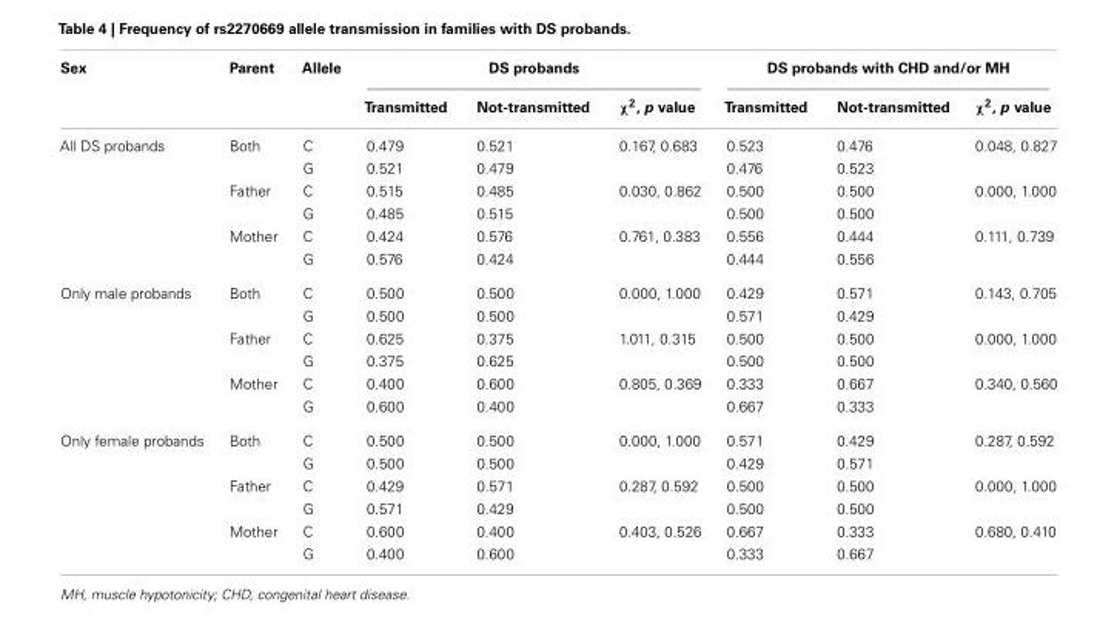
<table><thead><tr><td rowspan="2">Sex</td><td rowspan="2">Parent</td><td rowspan="2">Allele</td><td colspan="3">DS probands</td><td colspan="3">DS probands with CHD and/or MH</td></tr><tr><td>Transmitted</td><td>Not-transmitted</td><td>χ<sup>2</sup>, p value</td><td>Transmitted</td><td>Not-transmitted</td><td>χ<sup>2</sup>, p value</td></tr></thead><tbody><tr><td rowspan="6">All DS probands</td><td>Both</td><td>C</td><td>0.479</td><td>0.521</td><td>0.167, 0.683</td><td>0.523</td><td>0.476</td><td>0.048, 0.827</td></tr><tr><td></td><td>G</td><td>0.521</td><td>0.479</td><td></td><td>0.476</td><td>0.523</td><td></td></tr><tr><td>Father</td><td>C</td><td>0.515</td><td>0.485</td><td>0.030, 0.862</td><td>0.500</td><td>0.500</td><td>0.000, 1.000</td></tr><tr><td></td><td>G</td><td>0.485</td><td>0.515</td><td></td><td>0.500</td><td>0.500</td><td></td></tr><tr><td>Mother</td><td>C</td><td>0.424</td><td>0.576</td><td>0.761, 0.383</td><td>0.556</td><td>0.444</td><td>0.111, 0.739</td></tr><tr><td></td><td>G</td><td>0.576</td><td>0.424</td><td></td><td>0.444</td><td>0.556</td><td></td></tr><tr><td rowspan="6">Only male probands</td><td>Both</td><td>C</td><td>0.500</td><td>0.500</td><td>0.000, 1.000</td><td>0.429</td><td>0.571</td><td>0.143, 0.705</td></tr><tr><td></td><td>G</td><td>0.500</td><td>0.500</td><td></td><td>0.571</td><td>0.429</td><td></td></tr><tr><td>Father</td><td>C</td><td>0.625</td><td>0.375</td><td>1.011, 0.315</td><td>0.500</td><td>0.500</td><td>0.000, 1.000</td></tr><tr><td></td><td>G</td><td>0.375</td><td>0.625</td><td></td><td>0.500</td><td>0.500</td><td></td></tr><tr><td>Mother</td><td>C</td><td>0.400</td><td>0.600</td><td>0.805, 0.369</td><td>0.333</td><td>0.667</td><td>0.340, 0.560</td></tr><tr><td></td><td>G</td><td>0.600</td><td>0.400</td><td></td><td>0.667</td><td>0.333</td><td></td></tr><tr><td rowspan="6">Only female probands</td><td>Both</td><td>C</td><td>0.500</td><td>0.500</td><td>0.000, 1.000</td><td>0.571</td><td>0.429</td><td>0.287, 0.592</td></tr><tr><td></td><td>G</td><td>0.500</td><td>0.500</td><td></td><td>0.429</td><td>0.571</td><td></td></tr><tr><td>Father</td><td>C</td><td>0.429</td><td>0.571</td><td>0.287, 0.592</td><td>0.500</td><td>0.500</td><td>0.000, 1.000</td></tr><tr><td></td><td>G</td><td>0.571</td><td>0.429</td><td></td><td>0.500</td><td>0.500</td><td></td></tr><tr><td>Mother</td><td>C</td><td>0.600</td><td>0.400</td><td>0.403, 0.526</td><td>0.667</td><td>0.333</td><td>0.680, 0.410</td></tr><tr><td></td><td>G</td><td>0.400</td><td>0.600</td><td></td><td>0.333</td><td>0.667</td><td></td></tr></tbody></table>